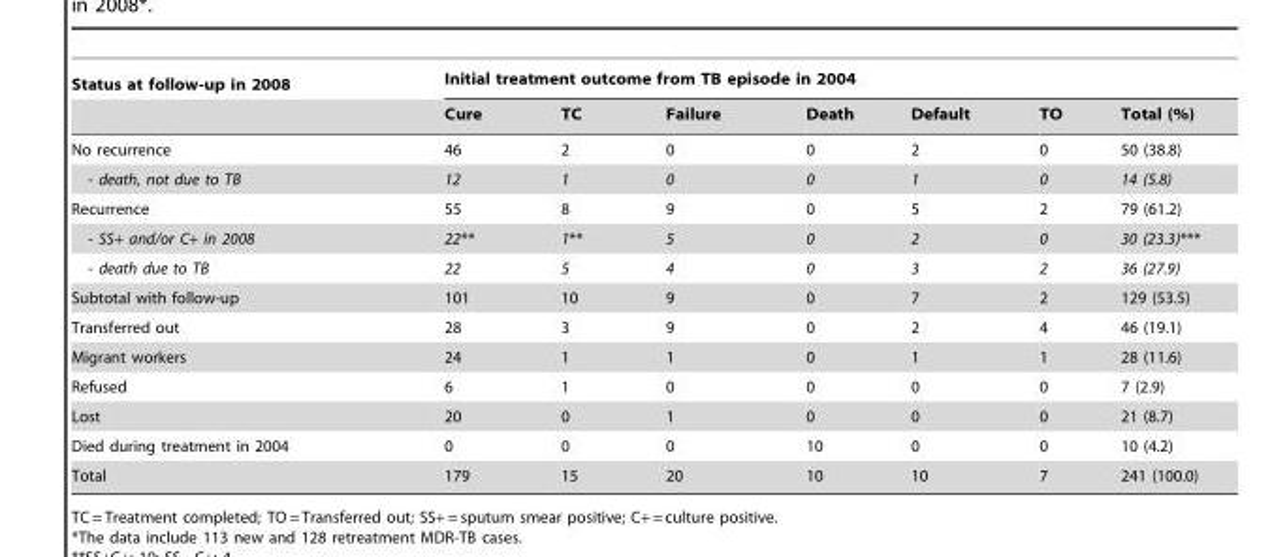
<table><thead><tr><td rowspan="2">Status at follow-up in 2008</td><td colspan="7">Initial treatment outcome from TB episode in 2004</td></tr><tr><td>Cure</td><td>TC</td><td>Failure</td><td>Death</td><td>Default</td><td>TO</td><td>Total (%)</td></tr></thead><tbody><tr><td>No recurrence</td><td>46</td><td>2</td><td>0</td><td>0</td><td>2</td><td>0</td><td>50 (38.8)</td></tr><tr><td>- death, not due to TB</td><td>12</td><td>1</td><td>0</td><td>0</td><td>1</td><td>0</td><td>14 (5.8)</td></tr><tr><td>Recurrence</td><td>55</td><td>8</td><td>9</td><td>0</td><td>5</td><td>2</td><td>79 (61.2)</td></tr><tr><td>- SS+ and/or C+ in 2008</td><td>22**</td><td>1**</td><td>5</td><td>0</td><td>2</td><td>0</td><td>30 (23.3)***</td></tr><tr><td>- death due to TB</td><td>22</td><td>5</td><td>4</td><td>0</td><td>3</td><td>2</td><td>36 (27.9)</td></tr><tr><td>Subtotal with follow-up</td><td>101</td><td>10</td><td>9</td><td>0</td><td>7</td><td>2</td><td>129 (53.5)</td></tr><tr><td>Transferred out</td><td>28</td><td>3</td><td>9</td><td>0</td><td>2</td><td>4</td><td>46 (19.1)</td></tr><tr><td>Migrant workers</td><td>24</td><td>1</td><td>1</td><td>0</td><td>1</td><td>1</td><td>28 (11.6)</td></tr><tr><td>Refused</td><td>6</td><td>1</td><td>0</td><td>0</td><td>0</td><td>0</td><td>7 (2.9)</td></tr><tr><td>Lost</td><td>20</td><td>0</td><td>1</td><td>0</td><td>0</td><td>0</td><td>21 (8.7)</td></tr><tr><td>Died during treatment in 2004</td><td>0</td><td>0</td><td>0</td><td>10</td><td>0</td><td>0</td><td>10 (4.2)</td></tr><tr><td>Total</td><td>179</td><td>15</td><td>20</td><td>10</td><td>10</td><td>7</td><td>241 (100.0)</td></tr></tbody></table>